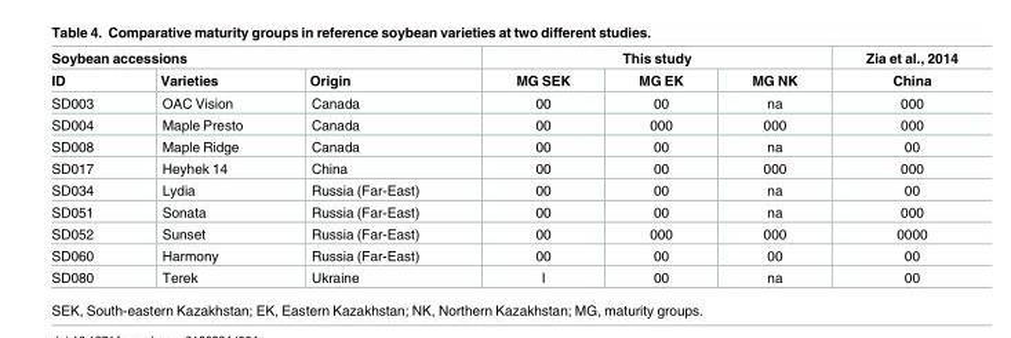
<table><thead><tr><td colspan="3">Soybean accessions</td><td colspan="3">This study</td><td rowspan="2">Zia et al., 2014 China</td></tr><tr><td>ID</td><td>Varieties</td><td>Origin</td><td>MG SEK</td><td>MG EK</td><td>MG NK</td></tr></thead><tbody><tr><td>SD003</td><td>OAC Vision</td><td>Canada</td><td>00</td><td>00</td><td>na</td><td>000</td></tr><tr><td>SD004</td><td>Maple Presto</td><td>Canada</td><td>00</td><td>000</td><td>000</td><td>000</td></tr><tr><td>SD008</td><td>Maple Ridge</td><td>Canada</td><td>00</td><td>00</td><td>na</td><td>00</td></tr><tr><td>SD017</td><td>Heyhek 14</td><td>China</td><td>00</td><td>00</td><td>000</td><td>000</td></tr><tr><td>SD034</td><td>Lydia</td><td>Russia (Far-East)</td><td>00</td><td>00</td><td>na</td><td>00</td></tr><tr><td>SD051</td><td>Sonata</td><td>Russia (Far-East)</td><td>00</td><td>00</td><td>na</td><td>000</td></tr><tr><td>SD052</td><td>Sunset</td><td>Russia (Far-East)</td><td>00</td><td>000</td><td>000</td><td>0000</td></tr><tr><td>SD060</td><td>Harmony</td><td>Russia (Far-East)</td><td>00</td><td>00</td><td>00</td><td>00</td></tr><tr><td>SD080</td><td>Terek</td><td>Ukraine</td><td>I</td><td>00</td><td>na</td><td>00</td></tr></tbody></table>